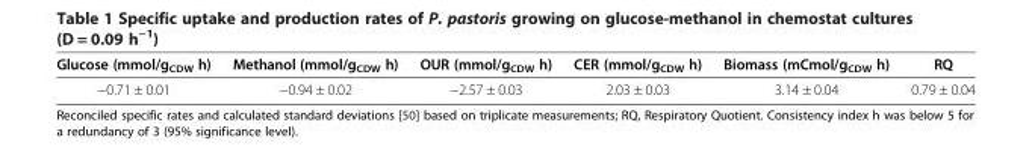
<table><thead><tr><td>Glucose (mmol/g<sub>CDW</sub> h)</td><td>Methanol (mmol/g<sub>CDW</sub> h)</td><td>OUR (mmol/g<sub>CDW</sub> h)</td><td>CER (mmol/g<sub>CDW</sub> h)</td><td>Biomass (mCmol/g<sub>CDW</sub> h)</td><td>RQ</td></tr></thead><tbody><tr><td>−0.71 ± 0.01</td><td>−0.94 ± 0.02</td><td>−2.57 ± 0.03</td><td>2.03 ± 0.03</td><td>3.14 ± 0.04</td><td>0.79 ± 0.04</td></tr></tbody></table>